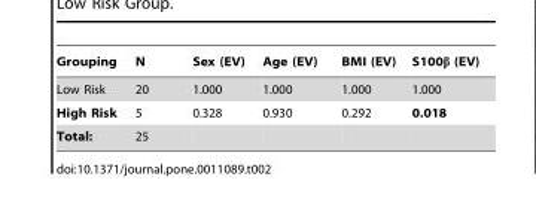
<table><thead><tr><td>Grouping</td><td>N</td><td>Sex (EV)</td><td>Age (EV)</td><td>BMI (EV)</td><td>S100β (EV)</td></tr></thead><tbody><tr><td>Low Risk</td><td>20</td><td>1.000</td><td>1.000</td><td>1.000</td><td>1.000</td></tr><tr><td>High Risk</td><td>5</td><td>0.328</td><td>0.930</td><td>0.292</td><td>0.018</td></tr><tr><td>Total:</td><td>25</td><td></td><td></td><td></td><td></td></tr></tbody></table>